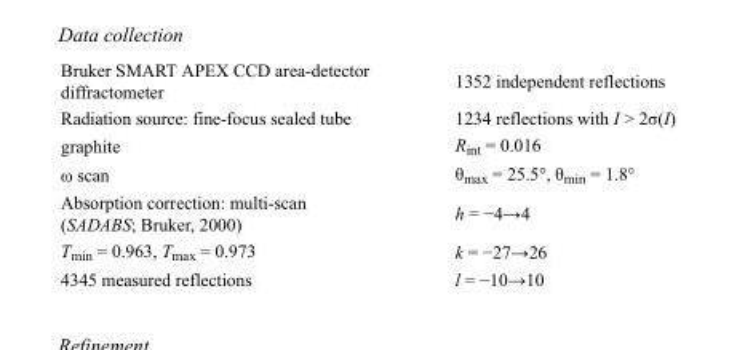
<table><tbody><tr><td>Bruker SMART APEX CCD area-detector diffractometer</td><td>1352 independent reflections</td></tr><tr><td>Radiation source: fine-focus sealed tube</td><td>1234 reflections with I &gt; 2σ(I)</td></tr><tr><td>graphite</td><td>R<sub>int</sub> = 0.016</td></tr><tr><td>ω scan</td><td>θ<sub>max</sub> = 25.5°, θ<sub>min</sub> = 1.8°</td></tr><tr><td>Absorption correction: multi-scan (SADABS; Bruker, 2000)</td><td>h = −4→4</td></tr><tr><td>T<sub>min</sub> = 0.963, T<sub>max</sub> = 0.973</td><td>k = −27→26</td></tr><tr><td>4345 measured reflections</td><td>l = −10→10</td></tr></tbody></table>